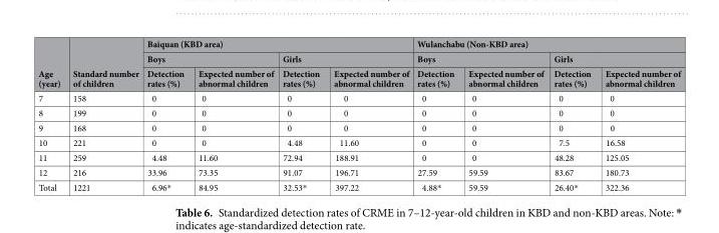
<table><thead><tr><td rowspan="3">Age (year)</td><td rowspan="3">Standard number of children</td><td colspan="4">Baiquan (KBD area)</td><td colspan="4">Wulanchabu (Non-KBD area)</td></tr><tr><td colspan="2">Boys</td><td colspan="2">Girls</td><td colspan="2">Boys</td><td colspan="2">Girls</td></tr><tr><td>Detection rates (%)</td><td>Expected number of abnormal children</td><td>Detection rates (%)</td><td>Expected number of abnormal children</td><td>Detection rates (%)</td><td>Expected number of abnormal children</td><td>Detection rates (%)</td><td>Expected number of abnormal children</td></tr></thead><tbody><tr><td>7</td><td>158</td><td>0</td><td>0</td><td>0</td><td>0</td><td>0</td><td>0</td><td>0</td><td>0</td></tr><tr><td>8</td><td>199</td><td>0</td><td>0</td><td>0</td><td>0</td><td>0</td><td>0</td><td>0</td><td>0</td></tr><tr><td>9</td><td>168</td><td>0</td><td>0</td><td>0</td><td>0</td><td>0</td><td>0</td><td>0</td><td>0</td></tr><tr><td>10</td><td>221</td><td>0</td><td>0</td><td>4.48</td><td>11.60</td><td>0</td><td>0</td><td>7.5</td><td>16.58</td></tr><tr><td>11</td><td>259</td><td>4.48</td><td>11.60</td><td>72.94</td><td>188.91</td><td>0</td><td>0</td><td>48.28</td><td>125.05</td></tr><tr><td>12</td><td>216</td><td>33.96</td><td>73.35</td><td>91.07</td><td>196.71</td><td>27.59</td><td>59.59</td><td>83.67</td><td>180.73</td></tr><tr><td>Total</td><td>1221</td><td>6.96*</td><td>84.95</td><td>32.53*</td><td>397.22</td><td>4.88*</td><td>59.59</td><td>26.40*</td><td>322.36</td></tr></tbody></table>